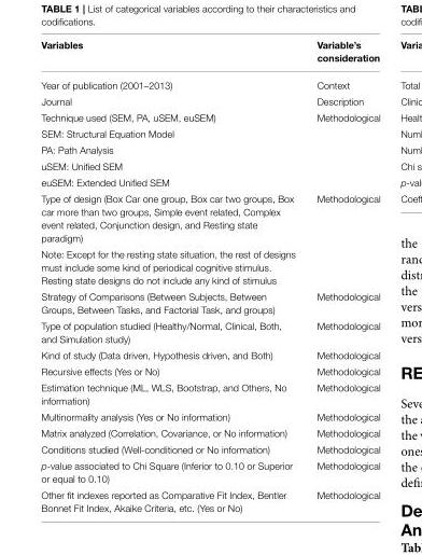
<table><thead><tr><td>Variables</td><td>Variable’s consideration</td></tr></thead><tbody><tr><td>Year of publication (2001–2013)</td><td>Context</td></tr><tr><td>Journal</td><td>Description</td></tr><tr><td>Technique used (SEM, PA, uSEM, euSEM)</td><td>Methodological</td></tr><tr><td colspan="2">SEM: Structural Equation Model</td></tr><tr><td colspan="2">PA: Path Analysis</td></tr><tr><td colspan="2">uSEM: Unified SEM</td></tr><tr><td colspan="2">euSEM: Extended Unified SEM</td></tr><tr><td>Type of design (Box Car one group, Box car two groups, Box car more than two groups, Simple event related, Complex event related, Conjunction design, and Resting state paradigm)</td><td>Methodological</td></tr><tr><td colspan="2">Note: Except for the resting state situation, the rest of designs must include some kind of periodical cognitive stimulus. Resting state designs do not include any kind of stimulus</td></tr><tr><td>Strategy of Comparisons (Between Subjects, Between Groups, Between Tasks, and Factorial Task, and groups)</td><td>Methodological</td></tr><tr><td>Type of population studied (Healthy/Normal, Clinical, Both, and Simulation study)</td><td>Methodological</td></tr><tr><td>Kind of study (Data driven, Hypothesis driven, and Both)</td><td>Methodological</td></tr><tr><td>Recursive effects (Yes or No)</td><td>Methodological</td></tr><tr><td>Estimation technique (ML, WLS, Bootstrap, and Others, No information)</td><td>Methodological</td></tr><tr><td>Multinormality analysis (Yes or No information)</td><td>Methodological</td></tr><tr><td>Matrix analyzed (Correlation, Covariance, or No information)</td><td>Methodological</td></tr><tr><td>Conditions studied (Well-conditioned or No information)</td><td>Methodological</td></tr><tr><td>p-value associated to Chi Square (Inferior to 0.10 or Superior or equal to 0.10)</td><td>Methodological</td></tr><tr><td>Other fit indexes reported as Comparative Fit Index, Bentler Bonnet Fit Index, Akaike Criteria, etc. (Yes or No)</td><td>Methodological</td></tr></tbody></table>